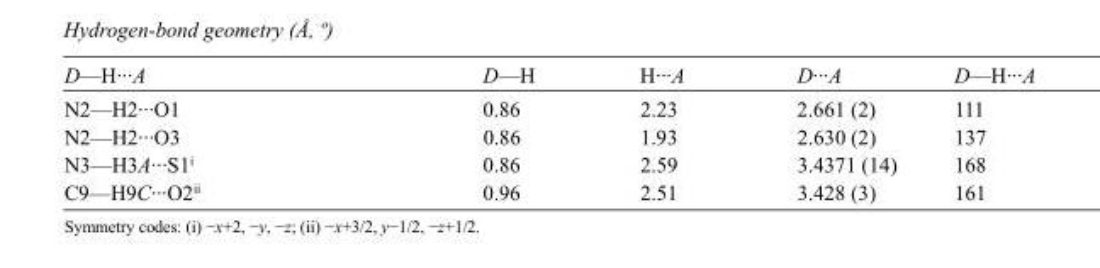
<table><tbody><tr><td>D—H···A</td><td>D—H</td><td>H···A</td><td>D···A</td><td>D—H···A</td></tr><tr><td>N2—H2···O1</td><td>0.86</td><td>2.23</td><td>2.661 (2)</td><td>111</td></tr><tr><td>N2—H2···O3</td><td>0.86</td><td>1.93</td><td>2.630 (2)</td><td>137</td></tr><tr><td>N3—H3A···S1<sup>i</sup></td><td>0.86</td><td>2.59</td><td>3.4371 (14)</td><td>168</td></tr><tr><td>C9—H9C···O2<sup>ii</sup></td><td>0.96</td><td>2.51</td><td>3.428 (3)</td><td>161</td></tr></tbody></table>